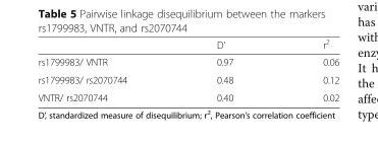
<table><thead><tr><td></td><td>D’</td><td>r<sup>2</sup></td></tr></thead><tbody><tr><td>rs1799983/ VNTR</td><td>0.97</td><td>0.06</td></tr><tr><td>rs1799983/ rs2070744</td><td>0.48</td><td>0.12</td></tr><tr><td>VNTR/ rs2070744</td><td>0.40</td><td>0.02</td></tr></tbody></table>